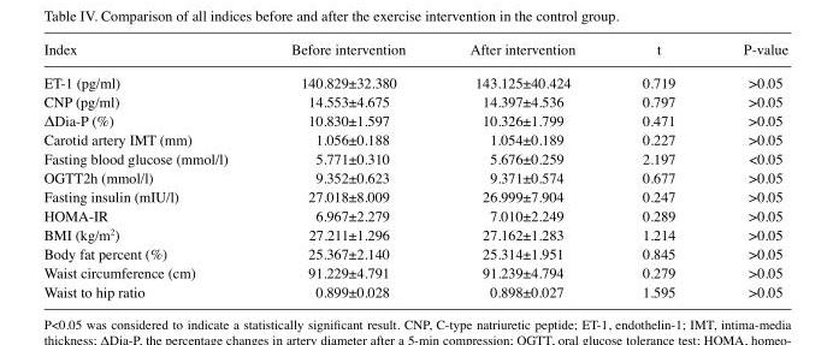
<table><thead><tr><td>Index</td><td>Before intervention</td><td>After intervention</td><td>t</td><td>P-value</td></tr></thead><tbody><tr><td>ET-1 (pg/ml)</td><td>140.829±32.380</td><td>143.125±40.424</td><td>0.719</td><td>&gt;0.05</td></tr><tr><td>CNP (pg/ml)</td><td>14.553±4.675</td><td>14.397±4.536</td><td>0.797</td><td>&gt;0.05</td></tr><tr><td>ΔDia-P (%)</td><td>10.830±1.597</td><td>10.326±1.799</td><td>0.471</td><td>&gt;0.05</td></tr><tr><td>Carotid artery IMT (mm)</td><td>1.056±0.188</td><td>1.054±0.189</td><td>0.227</td><td>&gt;0.05</td></tr><tr><td>Fasting blood glucose (mmol/l)</td><td>5.771±0.310</td><td>5.676±0.259</td><td>2.197</td><td>&lt;0.05</td></tr><tr><td>OGTT2h (mmol/l)</td><td>9.352±0.623</td><td>9.371±0.574</td><td>0.677</td><td>&gt;0.05</td></tr><tr><td>Fasting insulin (mIU/l)</td><td>27.018±8.009</td><td>26.999±7.904</td><td>0.247</td><td>&gt;0.05</td></tr><tr><td>HOMA-IR</td><td>6.967±2.279</td><td>7.010±2.249</td><td>0.289</td><td>&gt;0.05</td></tr><tr><td>BMI (kg/m<sup>2</sup>)</td><td>27.211±1.296</td><td>27.162±1.283</td><td>1.214</td><td>&gt;0.05</td></tr><tr><td>Body fat percent (%)</td><td>25.367±2.140</td><td>25.314±1.951</td><td>0.845</td><td>&gt;0.05</td></tr><tr><td>Waist circumference (cm)</td><td>91.229±4.791</td><td>91.239±4.794</td><td>0.279</td><td>&gt;0.05</td></tr><tr><td>Waist to hip ratio</td><td>0.899±0.028</td><td>0.898±0.027</td><td>1.595</td><td>&gt;0.05</td></tr></tbody></table>